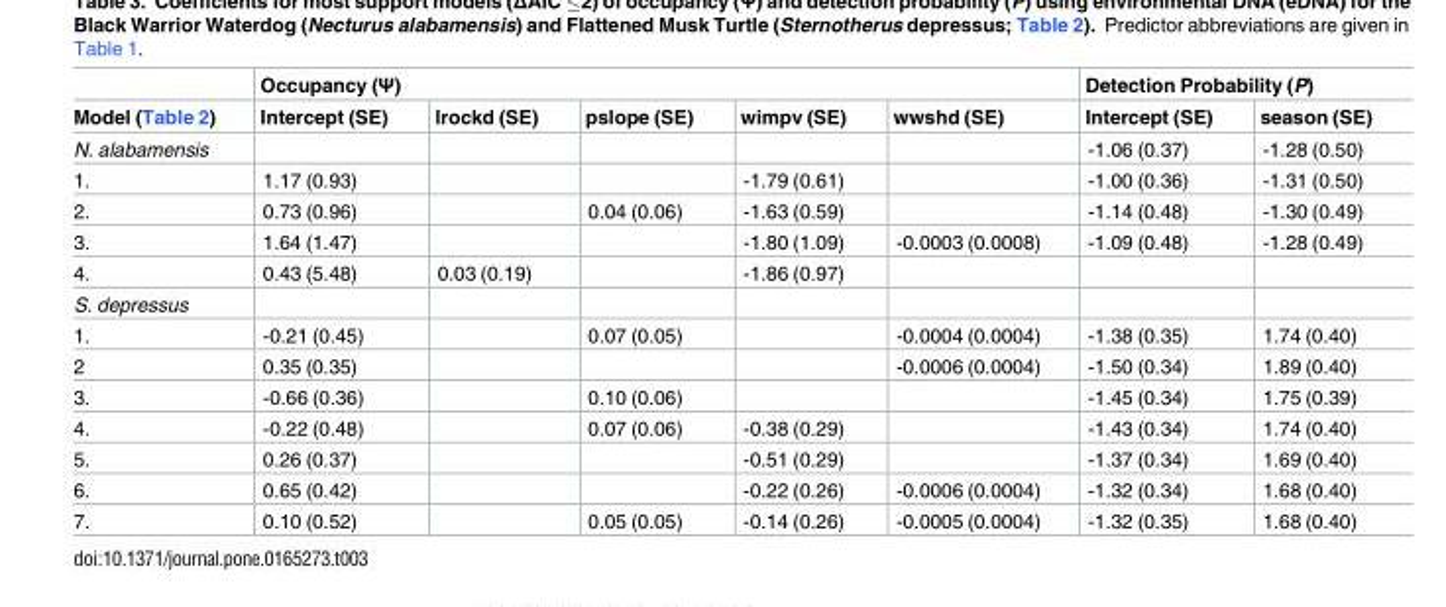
<table><thead><tr><td rowspan="2">Model (Table 2)</td><td colspan="5">Occupancy (Ψ)</td><td colspan="2">Detection Probability (P)</td></tr><tr><td>Intercept (SE)</td><td>lrockd (SE)</td><td>pslope (SE)</td><td>wimpv (SE)</td><td>wwshd (SE)</td><td>Intercept (SE)</td><td>season (SE)</td></tr></thead><tbody><tr><td>N. alabamensis</td><td></td><td></td><td></td><td></td><td></td><td>-1.06 (0.37)</td><td>-1.28 (0.50)</td></tr><tr><td>1.</td><td>1.17 (0.93)</td><td></td><td></td><td>-1.79 (0.61)</td><td></td><td>-1.00 (0.36)</td><td>-1.31 (0.50)</td></tr><tr><td>2.</td><td>0.73 (0.96)</td><td></td><td>0.04 (0.06)</td><td>-1.63 (0.59)</td><td></td><td>-1.14 (0.48)</td><td>-1.30 (0.49)</td></tr><tr><td>3.</td><td>1.64 (1.47)</td><td></td><td></td><td>-1.80 (1.09)</td><td>-0.0003 (0.0008)</td><td>-1.09 (0.48)</td><td>-1.28 (0.49)</td></tr><tr><td>4.</td><td>0.43 (5.48)</td><td>0.03 (0.19)</td><td></td><td>-1.86 (0.97)</td><td></td><td></td><td></td></tr><tr><td colspan="8">S. depressus</td></tr><tr><td>1.</td><td>-0.21 (0.45)</td><td></td><td>0.07 (0.05)</td><td></td><td>-0.0004 (0.0004)</td><td>-1.38 (0.35)</td><td>1.74 (0.40)</td></tr><tr><td>2</td><td>0.35 (0.35)</td><td></td><td></td><td></td><td>-0.0006 (0.0004)</td><td>-1.50 (0.34)</td><td>1.89 (0.40)</td></tr><tr><td>3.</td><td>-0.66 (0.36)</td><td></td><td>0.10 (0.06)</td><td></td><td></td><td>-1.45 (0.34)</td><td>1.75 (0.39)</td></tr><tr><td>4.</td><td>-0.22 (0.48)</td><td></td><td>0.07 (0.06)</td><td>-0.38 (0.29)</td><td></td><td>-1.43 (0.34)</td><td>1.74 (0.40)</td></tr><tr><td>5.</td><td>0.26 (0.37)</td><td></td><td></td><td>-0.51 (0.29)</td><td></td><td>-1.37 (0.34)</td><td>1.69 (0.40)</td></tr><tr><td>6.</td><td>0.65 (0.42)</td><td></td><td></td><td>-0.22 (0.26)</td><td>-0.0006 (0.0004)</td><td>-1.32 (0.34)</td><td>1.68 (0.40)</td></tr><tr><td>7.</td><td>0.10 (0.52)</td><td></td><td>0.05 (0.05)</td><td>-0.14 (0.26)</td><td>-0.0005 (0.0004)</td><td>-1.32 (0.35)</td><td>1.68 (0.40)</td></tr></tbody></table>